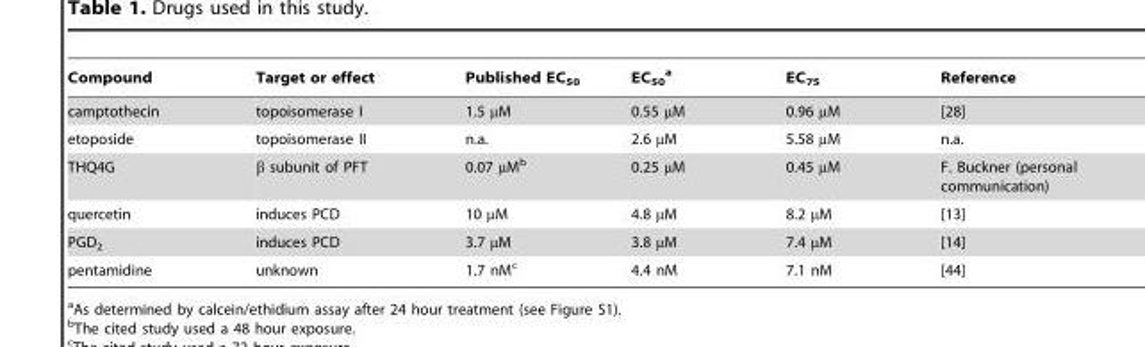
<table><thead><tr><td>Compound</td><td>Target or effect</td><td>Published EC<sub>50</sub></td><td>EC<sub>50</sub> a</td><td>EC<sub>75</sub></td><td>Reference</td></tr></thead><tbody><tr><td>camptothecin</td><td>topoisomerase I</td><td>1.5 µM</td><td>0.55 µM</td><td>0.96 µM</td><td>[28]</td></tr><tr><td>etoposide</td><td>topoisomerase II</td><td>n.a.</td><td>2.6 µM</td><td>5.58 µM</td><td>n.a.</td></tr><tr><td>THQ4G</td><td>β subunit of PFT</td><td>0.07 µM<sup>b</sup></td><td>0.25 µM</td><td>0.45 µM</td><td>F. Buckner (personal communication)</td></tr><tr><td>quercetin</td><td>induces PCD</td><td>10 µM</td><td>4.8 µM</td><td>8.2 µM</td><td>[13]</td></tr><tr><td>PGD<sub>2</sub></td><td>induces PCD</td><td>3.7 µM</td><td>3.8 µM</td><td>7.4 µM</td><td>[14]</td></tr><tr><td>pentamidine</td><td>unknown</td><td>1.7 nM<sup>c</sup></td><td>4.4 nM</td><td>7.1 nM</td><td>[44]</td></tr></tbody></table>